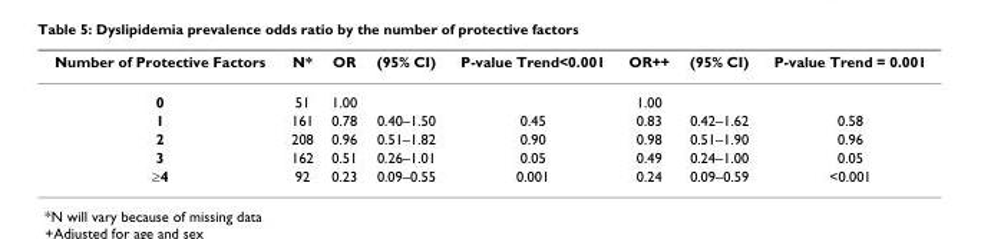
<table><thead><tr><td>Number of Protective Factors</td><td>N*</td><td>OR</td><td>(95% CI)</td><td>P-value Trend&lt;0.001</td><td>OR++</td><td>(95% CI)</td><td>P-value Trend = 0.001</td></tr></thead><tbody><tr><td>0</td><td>51</td><td>1.00</td><td></td><td></td><td>1.00</td><td></td><td></td></tr><tr><td>1</td><td>161</td><td>0.78</td><td>0.40–1.50</td><td>0.45</td><td>0.83</td><td>0.42–1.62</td><td>0.58</td></tr><tr><td>2</td><td>208</td><td>0.96</td><td>0.51–1.82</td><td>0.90</td><td>0.98</td><td>0.51–1.90</td><td>0.96</td></tr><tr><td>3</td><td>162</td><td>0.51</td><td>0.26–1.01</td><td>0.05</td><td>0.49</td><td>0.24–1.00</td><td>0.05</td></tr><tr><td>≥4</td><td>92</td><td>0.23</td><td>0.09–0.55</td><td>0.001</td><td>0.24</td><td>0.09–0.59</td><td>&lt;0.001</td></tr></tbody></table>